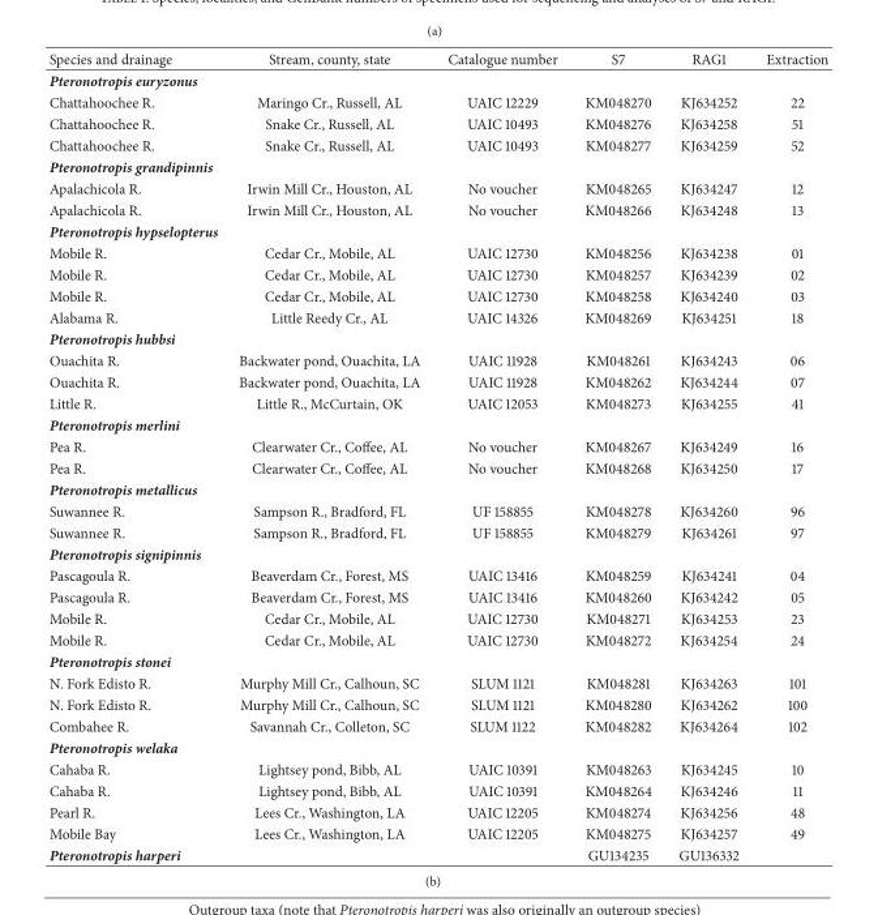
<table><thead><tr><td>Species and drainage</td><td>Stream, county, state</td><td>Catalogue number</td><td>S7</td><td>RAG1</td><td>Extraction</td></tr></thead><tbody><tr><td colspan="6">Pteronotropis euryzonus</td></tr><tr><td>Chattahoochee R.</td><td>Maringo Cr., Russell, AL</td><td>UAIC 12229</td><td>KM048270</td><td>KJ634252</td><td>22</td></tr><tr><td>Chattahoochee R.</td><td>Snake Cr., Russell, AL</td><td>UAIC 10493</td><td>KM048276</td><td>KJ634258</td><td>51</td></tr><tr><td>Chattahoochee R.</td><td>Snake Cr., Russell, AL</td><td>UAIC 10493</td><td>KM048277</td><td>KJ634259</td><td>52</td></tr><tr><td colspan="6">Pteronotropis grandipinnis</td></tr><tr><td>Apalachicola R.</td><td>Irwin Mill Cr., Houston, AL</td><td>No voucher</td><td>KM048265</td><td>KJ634247</td><td>12</td></tr><tr><td>Apalachicola R.</td><td>Irwin Mill Cr., Houston, AL</td><td>No voucher</td><td>KM048266</td><td>KJ634248</td><td>13</td></tr><tr><td colspan="6">Pteronotropis hypselopterus</td></tr><tr><td>Mobile R.</td><td>Cedar Cr., Mobile, AL</td><td>UAIC 12730</td><td>KM048256</td><td>KJ634238</td><td>01</td></tr><tr><td>Mobile R.</td><td>Cedar Cr., Mobile, AL</td><td>UAIC 12730</td><td>KM048257</td><td>KJ634239</td><td>02</td></tr><tr><td>Mobile R.</td><td>Cedar Cr., Mobile, AL</td><td>UAIC 12730</td><td>KM048258</td><td>KJ634240</td><td>03</td></tr><tr><td>Alabama R.</td><td>Little Reedy Cr., AL</td><td>UAIC 14326</td><td>KM048269</td><td>KJ634251</td><td>18</td></tr><tr><td colspan="6">Pteronotropis hubbsi</td></tr><tr><td>Ouachita R.</td><td>Backwater pond, Ouachita, LA</td><td>UAIC 11928</td><td>KM048261</td><td>KJ634243</td><td>06</td></tr><tr><td>Ouachita R.</td><td>Backwater pond, Ouachita, LA</td><td>UAIC 11928</td><td>KM048262</td><td>KJ634244</td><td>07</td></tr><tr><td>Little R.</td><td>Little R., McCurtain, OK</td><td>UAIC 12053</td><td>KM048273</td><td>KJ634255</td><td>41</td></tr><tr><td colspan="6">Pteronotropis merlini</td></tr><tr><td>Pea R.</td><td>Clearwater Cr., Coffee, AL</td><td>No voucher</td><td>KM048267</td><td>KJ634249</td><td>16</td></tr><tr><td>Pea R.</td><td>Clearwater Cr., Coffee, AL</td><td>No voucher</td><td>KM048268</td><td>KJ634250</td><td>17</td></tr><tr><td colspan="6">Pteronotropis metallicus</td></tr><tr><td>Suwannee R.</td><td>Sampson R., Bradford, FL</td><td>UF 158855</td><td>KM048278</td><td>KJ634260</td><td>96</td></tr><tr><td>Suwannee R.</td><td>Sampson R., Bradford, FL</td><td>UF 158855</td><td>KM048279</td><td>KJ634261</td><td>97</td></tr><tr><td colspan="6">Pteronotropis signipinnis</td></tr><tr><td>Pascagoula R.</td><td>Beaverdam Cr., Forest, MS</td><td>UAIC 13416</td><td>KM048259</td><td>KJ634241</td><td>04</td></tr><tr><td>Pascagoula R.</td><td>Beaverdam Cr., Forest, MS</td><td>UAIC 13416</td><td>KM048260</td><td>KJ634242</td><td>05</td></tr><tr><td>Mobile R.</td><td>Cedar Cr., Mobile, AL</td><td>UAIC 12730</td><td>KM048271</td><td>KJ634253</td><td>23</td></tr><tr><td>Mobile R.</td><td>Cedar Cr., Mobile, AL</td><td>UAIC 12730</td><td>KM048272</td><td>KJ634254</td><td>24</td></tr><tr><td colspan="6">Pteronotropis stonei</td></tr><tr><td>N. Fork Edisto R.</td><td>Murphy Mill Cr., Calhoun, SC</td><td>SLUM 1121</td><td>KM048281</td><td>KJ634263</td><td>101</td></tr><tr><td>N. Fork Edisto R.</td><td>Murphy Mill Cr., Calhoun, SC</td><td>SLUM 1121</td><td>KM048280</td><td>KJ634262</td><td>100</td></tr><tr><td>Combahee R.</td><td>Savannah Cr., Colleton, SC</td><td>SLUM 1122</td><td>KM048282</td><td>KJ634264</td><td>102</td></tr><tr><td colspan="6">Pteronotropis welaka</td></tr><tr><td>Cahaba R.</td><td>Lightsey pond, Bibb, AL</td><td>UAIC 10391</td><td>KM048263</td><td>KJ634245</td><td>10</td></tr><tr><td>Cahaba R.</td><td>Lightsey pond, Bibb, AL</td><td>UAIC 10391</td><td>KM048264</td><td>KJ634246</td><td>11</td></tr><tr><td>Pearl R.</td><td>Lees Cr., Washington, LA</td><td>UAIC 12205</td><td>KM048274</td><td>KJ634256</td><td>48</td></tr><tr><td>Mobile Bay</td><td>Lees Cr., Washington, LA</td><td>UAIC 12205</td><td>KM048275</td><td>KJ634257</td><td>49</td></tr><tr><td>Pteronotropis harperi</td><td></td><td></td><td>GU134235</td><td>GU136332</td><td></td></tr></tbody></table>